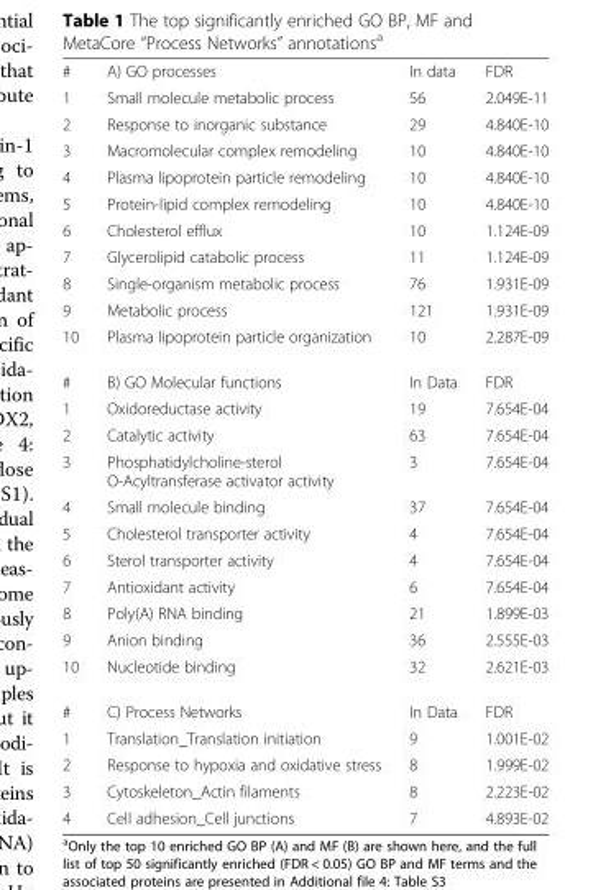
<table><tbody><tr><td>#</td><td>A) GO processes</td><td>In data</td><td>FDR</td></tr><tr><td>1</td><td>Small molecule metabolic process</td><td>56</td><td>2.049E-11</td></tr><tr><td>2</td><td>Response to inorganic substance</td><td>29</td><td>4.840E-10</td></tr><tr><td>3</td><td>Macromolecular complex remodeling</td><td>10</td><td>4.840E-10</td></tr><tr><td>4</td><td>Plasma lipoprotein particle remodeling</td><td>10</td><td>4.840E-10</td></tr><tr><td>5</td><td>Protein-lipid complex remodeling</td><td>10</td><td>4.840E-10</td></tr><tr><td>6</td><td>Cholesterol efflux</td><td>10</td><td>1.124E-09</td></tr><tr><td>7</td><td>Glycerolipid catabolic process</td><td>11</td><td>1.124E-09</td></tr><tr><td>8</td><td>Single-organism metabolic process</td><td>76</td><td>1.931E-09</td></tr><tr><td>9</td><td>Metabolic process</td><td>121</td><td>1.931E-09</td></tr><tr><td>10</td><td>Plasma lipoprotein particle organization</td><td>10</td><td>2.287E-09</td></tr><tr><td>#</td><td>B) GO Molecular functions</td><td>In Data</td><td>FDR</td></tr><tr><td>1</td><td>Oxidoreductase activity</td><td>19</td><td>7.654E-04</td></tr><tr><td>2</td><td>Catalytic activity</td><td>63</td><td>7.654E-04</td></tr><tr><td>3</td><td>Phosphatidylcholine-sterol O-Acyltransferase activator activity</td><td>3</td><td>7.654E-04</td></tr><tr><td>4</td><td>Small molecule binding</td><td>37</td><td>7.654E-04</td></tr><tr><td>5</td><td>Cholesterol transporter activity</td><td>4</td><td>7.654E-04</td></tr><tr><td>6</td><td>Sterol transporter activity</td><td>4</td><td>7.654E-04</td></tr><tr><td>7</td><td>Antioxidant activity</td><td>6</td><td>7.654E-04</td></tr><tr><td>8</td><td>Poly(A) RNA binding</td><td>21</td><td>1.899E-03</td></tr><tr><td>9</td><td>Anion binding</td><td>36</td><td>2.555E-03</td></tr><tr><td>10</td><td>Nucleotide binding</td><td>32</td><td>2.621E-03</td></tr><tr><td>#</td><td>C) Process Networks</td><td>In Data</td><td>FDR</td></tr><tr><td>1</td><td>Translation_Translation initiation</td><td>9</td><td>1.001E-02</td></tr><tr><td>2</td><td>Response to hypoxia and oxidative stress</td><td>8</td><td>1.999E-02</td></tr><tr><td>3</td><td>Cytoskeleton_Actin filaments</td><td>8</td><td>2.223E-02</td></tr><tr><td>4</td><td>Cell adhesion_Cell junctions</td><td>7</td><td>4.893E-02</td></tr></tbody></table>